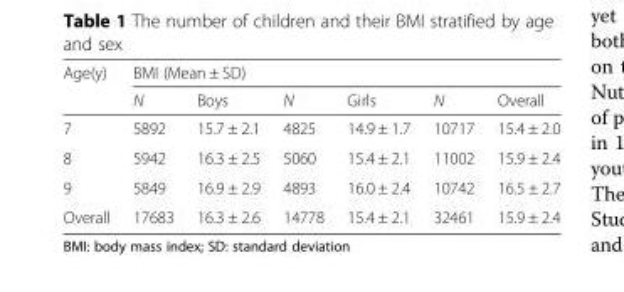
<table><thead><tr><td rowspan="2">Age(y)</td><td colspan="6">BMI (Mean ± SD)</td></tr><tr><td>N</td><td>Boys</td><td>N</td><td>Girls</td><td>N</td><td>Overall</td></tr></thead><tbody><tr><td>7</td><td>5892</td><td>15.7 ± 2.1</td><td>4825</td><td>14.9 ± 1.7</td><td>10717</td><td>15.4 ± 2.0</td></tr><tr><td>8</td><td>5942</td><td>16.3 ± 2.5</td><td>5060</td><td>15.4 ± 2.1</td><td>11002</td><td>15.9 ± 2.4</td></tr><tr><td>9</td><td>5849</td><td>16.9 ± 2.9</td><td>4893</td><td>16.0 ± 2.4</td><td>10742</td><td>16.5 ± 2.7</td></tr><tr><td>Overall</td><td>17683</td><td>16.3 ± 2.6</td><td>14778</td><td>15.4 ± 2.1</td><td>32461</td><td>15.9 ± 2.4</td></tr></tbody></table>